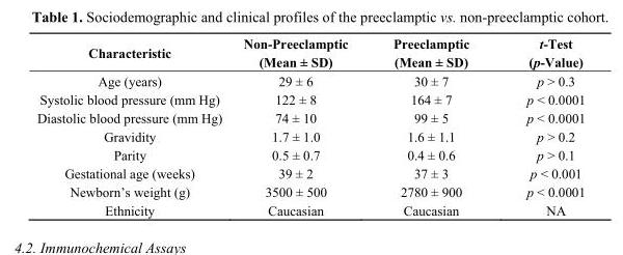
<table><thead><tr><td>Characteristic</td><td>Non-Preeclamptic (Mean ± SD)</td><td>Preeclamptic (Mean ± SD)</td><td>t-Test (p-Value)</td></tr></thead><tbody><tr><td>Age (years)</td><td>29 ± 6</td><td>30 ± 7</td><td>p &gt; 0.3</td></tr><tr><td>Systolic blood pressure (mm Hg)</td><td>122 ± 8</td><td>164 ± 7</td><td>p &lt; 0.0001</td></tr><tr><td>Diastolic blood pressure (mm Hg)</td><td>74 ± 10</td><td>99 ± 5</td><td>p &lt; 0.0001</td></tr><tr><td>Gravidity</td><td>1.7 ± 1.0</td><td>1.6 ± 1.1</td><td>p &gt; 0.2</td></tr><tr><td>Parity</td><td>0.5 ± 0.7</td><td>0.4 ± 0.6</td><td>p &gt; 0.1</td></tr><tr><td>Gestational age (weeks)</td><td>39 ± 2</td><td>37 ± 3</td><td>p &lt; 0.001</td></tr><tr><td>Newborn’s weight (g)</td><td>3500 ± 500</td><td>2780 ± 900</td><td>p &lt; 0.0001</td></tr><tr><td>Ethnicity</td><td>Caucasian</td><td>Caucasian</td><td>NA</td></tr></tbody></table>